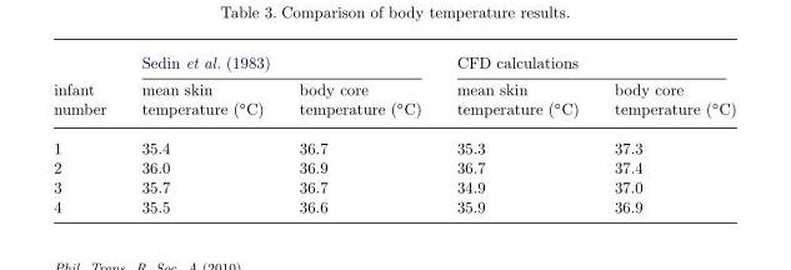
<table><thead><tr><td rowspan="2">infant number</td><td colspan="2">Sedin et al. (1983)</td><td colspan="2">CFD calculations</td></tr><tr><td>mean skin temperature (◦C)</td><td>body core temperature (◦C)</td><td>mean skin temperature (◦C)</td><td>body core temperature (◦C)</td></tr></thead><tbody><tr><td>1</td><td>35.4</td><td>36.7</td><td>35.3</td><td>37.3</td></tr><tr><td>2</td><td>36.0</td><td>36.9</td><td>36.7</td><td>37.4</td></tr><tr><td>3</td><td>35.7</td><td>36.7</td><td>34.9</td><td>37.0</td></tr><tr><td>4</td><td>35.5</td><td>36.6</td><td>35.9</td><td>36.9</td></tr></tbody></table>